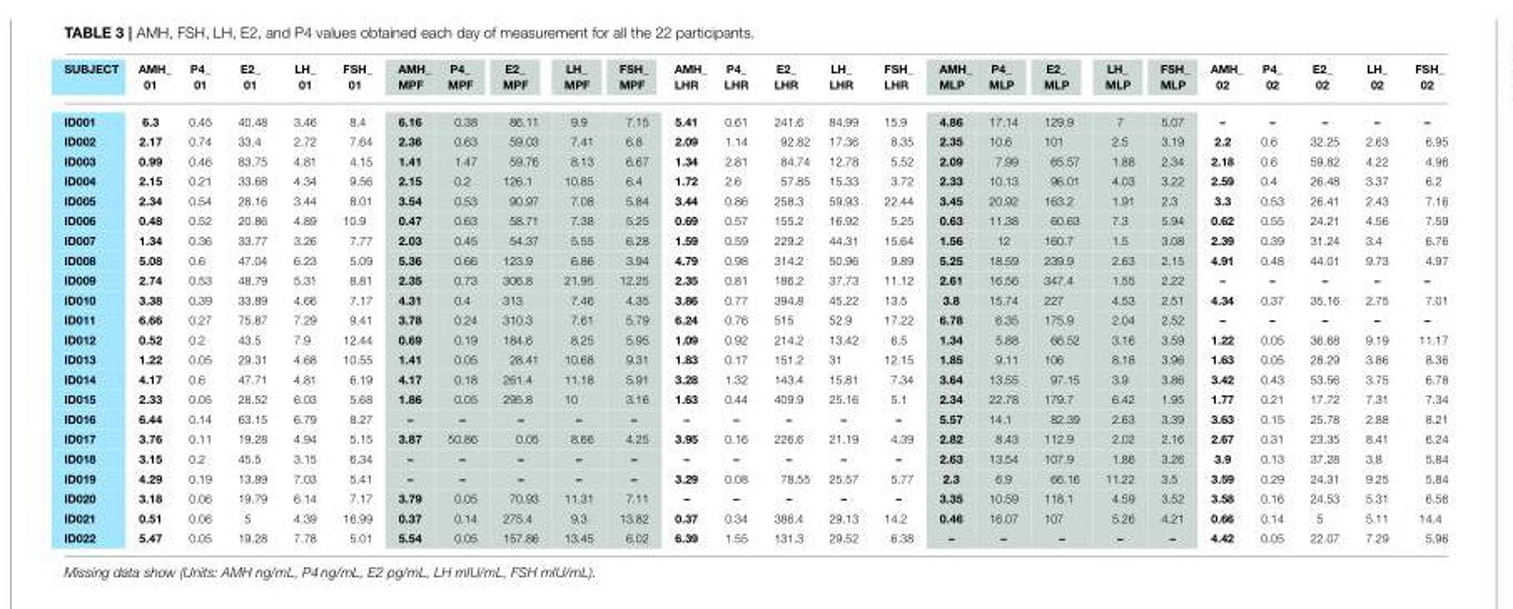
<table><thead><tr><td>SUBJECT</td><td>AMH_ 01</td><td>P4_ 01</td><td>E2_ 01</td><td>LH_ 01</td><td>FSH_ 01</td><td>AMH_ MPF</td><td>P4_ MPF</td><td>E2_ MPF</td><td>LH_ MPF</td><td>FSH_ MPF</td><td>AMH_ LHR</td><td>P4_ LHR</td><td>E2_ LHR</td><td>LH_ LHR</td><td>FSH_ LHR</td><td>AMH_ MLP</td><td>P4_ MLP</td><td>E2_ MLP</td><td>LH_ MLP</td><td>FSH_ MLP</td><td>AMH_ 02</td><td>P4_ 02</td><td>E2_ 02</td><td>LH_ 02</td><td>FSH_ 02</td></tr></thead><tbody><tr><td>ID001</td><td>6.3</td><td>0.45</td><td>40.48</td><td>3.46</td><td>8.4</td><td>6.16</td><td>0.38</td><td>86.11</td><td>9.9</td><td>7.15</td><td>5.41</td><td>0.61</td><td>241.6</td><td>84.99</td><td>15.9</td><td>4.86</td><td>17.14</td><td>129.9</td><td>7</td><td>5.07</td><td>–</td><td>–</td><td>–</td><td>–</td><td>–</td></tr><tr><td>ID002</td><td>2.17</td><td>0.74</td><td>33.4</td><td>2.72</td><td>7.64</td><td>2.36</td><td>0.63</td><td>59.03</td><td>7.41</td><td>6.8</td><td>2.09</td><td>1.14</td><td>92.82</td><td>17.36</td><td>8.35</td><td>2.35</td><td>10.6</td><td>101</td><td>2.5</td><td>3.19</td><td>2.2</td><td>0.6</td><td>32.25</td><td>2.63</td><td>6.95</td></tr><tr><td>ID003</td><td>0.99</td><td>0.46</td><td>83.75</td><td>4.81</td><td>4.15</td><td>1.41</td><td>1.47</td><td>59.76</td><td>8.13</td><td>6.67</td><td>1.34</td><td>2.81</td><td>84.74</td><td>12.78</td><td>5.52</td><td>2.09</td><td>7.99</td><td>65.57</td><td>1.88</td><td>2.34</td><td>2.18</td><td>0.6</td><td>59.82</td><td>4.22</td><td>4.96</td></tr><tr><td>ID004</td><td>2.15</td><td>0.21</td><td>33.68</td><td>4.34</td><td>9.56</td><td>2.15</td><td>0.2</td><td>126.1</td><td>10.85</td><td>6.4</td><td>1.72</td><td>2.6</td><td>57.85</td><td>15.33</td><td>3.72</td><td>2.33</td><td>10.13</td><td>96.01</td><td>4.03</td><td>3.22</td><td>2.59</td><td>0.4</td><td>26.48</td><td>3.37</td><td>6.2</td></tr><tr><td>ID005</td><td>2.34</td><td>0.54</td><td>28.16</td><td>3.44</td><td>8.01</td><td>3.54</td><td>0.53</td><td>90.97</td><td>7.08</td><td>5.84</td><td>3.44</td><td>0.86</td><td>258.3</td><td>59.93</td><td>22.44</td><td>3.45</td><td>20.92</td><td>163.2</td><td>1.91</td><td>2.3</td><td>3.3</td><td>0.53</td><td>26.41</td><td>2.43</td><td>7.16</td></tr><tr><td>ID006</td><td>0.48</td><td>0.52</td><td>20.86</td><td>4.89</td><td>10.9</td><td>0.47</td><td>0.63</td><td>58.71</td><td>7.38</td><td>5.25</td><td>0.69</td><td>0.57</td><td>155.2</td><td>16.92</td><td>5.25</td><td>0.63</td><td>11.38</td><td>60.63</td><td>7.3</td><td>5.94</td><td>0.62</td><td>0.55</td><td>24.21</td><td>4.56</td><td>7.59</td></tr><tr><td>ID007</td><td>1.34</td><td>0.36</td><td>33.77</td><td>3.26</td><td>7.77</td><td>2.03</td><td>0.45</td><td>54.37</td><td>5.55</td><td>6.28</td><td>1.59</td><td>0.59</td><td>229.2</td><td>44.31</td><td>15.64</td><td>1.56</td><td>12</td><td>160.7</td><td>1.5</td><td>3.08</td><td>2.39</td><td>0.39</td><td>31.24</td><td>3.4</td><td>6.76</td></tr><tr><td>ID008</td><td>5.08</td><td>0.6</td><td>47.04</td><td>6.23</td><td>5.09</td><td>5.36</td><td>0.66</td><td>123.9</td><td>6.86</td><td>3.94</td><td>4.79</td><td>0.98</td><td>314.2</td><td>50.96</td><td>9.89</td><td>5.25</td><td>18.59</td><td>239.9</td><td>2.63</td><td>2.15</td><td>4.91</td><td>0.48</td><td>44.01</td><td>9.73</td><td>4.97</td></tr><tr><td>ID009</td><td>2.74</td><td>0.53</td><td>48.79</td><td>5.31</td><td>8.81</td><td>2.35</td><td>0.73</td><td>306.8</td><td>21.95</td><td>12.25</td><td>2.35</td><td>0.81</td><td>186.2</td><td>37.73</td><td>11.12</td><td>2.61</td><td>16.56</td><td>347.4</td><td>1.55</td><td>2.22</td><td>–</td><td>–</td><td>–</td><td>–</td><td>–</td></tr><tr><td>ID010</td><td>3.38</td><td>0.39</td><td>33.89</td><td>4.66</td><td>7.17</td><td>4.31</td><td>0.4</td><td>313</td><td>7.46</td><td>4.35</td><td>3.86</td><td>0.77</td><td>394.8</td><td>45.22</td><td>13.5</td><td>3.8</td><td>15.74</td><td>227</td><td>4.53</td><td>2.51</td><td>4.34</td><td>0.37</td><td>35.16</td><td>2.75</td><td>7.01</td></tr><tr><td>ID011</td><td>6.66</td><td>0.27</td><td>75.87</td><td>7.29</td><td>9.41</td><td>3.78</td><td>0.24</td><td>310.3</td><td>7.61</td><td>5.79</td><td>6.24</td><td>0.76</td><td>515</td><td>52.9</td><td>17.22</td><td>6.78</td><td>6.35</td><td>175.9</td><td>2.04</td><td>2.52</td><td>–</td><td>–</td><td>–</td><td>–</td><td>–</td></tr><tr><td>ID012</td><td>0.52</td><td>0.2</td><td>43.5</td><td>7.9</td><td>12.44</td><td>0.69</td><td>0.19</td><td>184.6</td><td>8.25</td><td>5.95</td><td>1.09</td><td>0.92</td><td>214.2</td><td>13.42</td><td>6.5</td><td>1.34</td><td>5.88</td><td>66.52</td><td>3.16</td><td>3.59</td><td>1.22</td><td>0.05</td><td>36.68</td><td>9.19</td><td>11.17</td></tr><tr><td>ID013</td><td>1.22</td><td>0.05</td><td>29.31</td><td>4.68</td><td>10.55</td><td>1.41</td><td>0.05</td><td>28.41</td><td>10.68</td><td>9.31</td><td>1.83</td><td>0.17</td><td>151.2</td><td>31</td><td>12.15</td><td>1.85</td><td>9.11</td><td>106</td><td>8.18</td><td>3.96</td><td>1.63</td><td>0.05</td><td>28.29</td><td>3.86</td><td>8.36</td></tr><tr><td>ID014</td><td>4.17</td><td>0.6</td><td>47.71</td><td>4.81</td><td>6.19</td><td>4.17</td><td>0.18</td><td>261.4</td><td>11.18</td><td>5.91</td><td>3.28</td><td>1.32</td><td>143.4</td><td>15.81</td><td>7.34</td><td>3.64</td><td>13.55</td><td>97.15</td><td>3.9</td><td>3.86</td><td>3.42</td><td>0.43</td><td>53.56</td><td>3.75</td><td>6.78</td></tr><tr><td>ID015</td><td>2.33</td><td>0.05</td><td>28.52</td><td>6.03</td><td>5.68</td><td>1.86</td><td>0.05</td><td>295.8</td><td>10</td><td>3.16</td><td>1.63</td><td>0.44</td><td>409.9</td><td>25.16</td><td>5.1</td><td>2.34</td><td>22.78</td><td>179.7</td><td>6.42</td><td>1.95</td><td>1.77</td><td>0.21</td><td>17.72</td><td>7.31</td><td>7.34</td></tr><tr><td>ID016</td><td>6.44</td><td>0.14</td><td>63.15</td><td>6.79</td><td>8.27</td><td>–</td><td>–</td><td>–</td><td>–</td><td>–</td><td>–</td><td>–</td><td>–</td><td>–</td><td>–</td><td>5.57</td><td>14.1</td><td>82.39</td><td>2.63</td><td>3.39</td><td>3.63</td><td>0.15</td><td>25.78</td><td>2.88</td><td>8.21</td></tr><tr><td>ID017</td><td>3.76</td><td>0.11</td><td>19.28</td><td>4.94</td><td>5.15</td><td>3.87</td><td>50.86</td><td>0.05</td><td>8.66</td><td>4.25</td><td>3.95</td><td>0.16</td><td>226.6</td><td>21.19</td><td>4.39</td><td>2.82</td><td>8.43</td><td>112.9</td><td>2.02</td><td>2.16</td><td>2.67</td><td>0.31</td><td>23.35</td><td>8.41</td><td>6.24</td></tr><tr><td>ID018</td><td>3.15</td><td>0.2</td><td>45.5</td><td>3.15</td><td>6.34</td><td>–</td><td>–</td><td>–</td><td>–</td><td>–</td><td>–</td><td>–</td><td>–</td><td>–</td><td>–</td><td>2.63</td><td>13.54</td><td>107.9</td><td>1.86</td><td>3.26</td><td>3.9</td><td>0.13</td><td>37.28</td><td>3.8</td><td>5.84</td></tr><tr><td>ID019</td><td>4.29</td><td>0.19</td><td>13.89</td><td>7.03</td><td>5.41</td><td>–</td><td>–</td><td>–</td><td>–</td><td>–</td><td>3.29</td><td>0.08</td><td>78.55</td><td>25.57</td><td>5.77</td><td>2.3</td><td>6.9</td><td>66.16</td><td>11.22</td><td>3.5</td><td>3.59</td><td>0.29</td><td>24.31</td><td>9.25</td><td>5.84</td></tr><tr><td>ID020</td><td>3.18</td><td>0.06</td><td>19.79</td><td>6.14</td><td>7.17</td><td>3.79</td><td>0.05</td><td>70.93</td><td>11.31</td><td>7.11</td><td>–</td><td>–</td><td>–</td><td>–</td><td>–</td><td>3.35</td><td>10.59</td><td>118.1</td><td>4.59</td><td>3.52</td><td>3.58</td><td>0.16</td><td>24.53</td><td>5.31</td><td>6.56</td></tr><tr><td>ID021</td><td>0.51</td><td>0.06</td><td>5</td><td>4.39</td><td>16.99</td><td>0.37</td><td>0.14</td><td>275.4</td><td>9.3</td><td>13.82</td><td>0.37</td><td>0.34</td><td>386.4</td><td>29.13</td><td>14.2</td><td>0.46</td><td>16.07</td><td>107</td><td>5.26</td><td>4.21</td><td>0.66</td><td>0.14</td><td>5</td><td>5.11</td><td>14.4</td></tr><tr><td>ID022</td><td>5.47</td><td>0.05</td><td>19.28</td><td>7.78</td><td>5.01</td><td>5.54</td><td>0.05</td><td>157.86</td><td>13.45</td><td>6.02</td><td>6.39</td><td>1.55</td><td>131.3</td><td>29.52</td><td>6.38</td><td>–</td><td>–</td><td>–</td><td>–</td><td>–</td><td>4.42</td><td>0.05</td><td>22.07</td><td>7.29</td><td>5.96</td></tr></tbody></table>